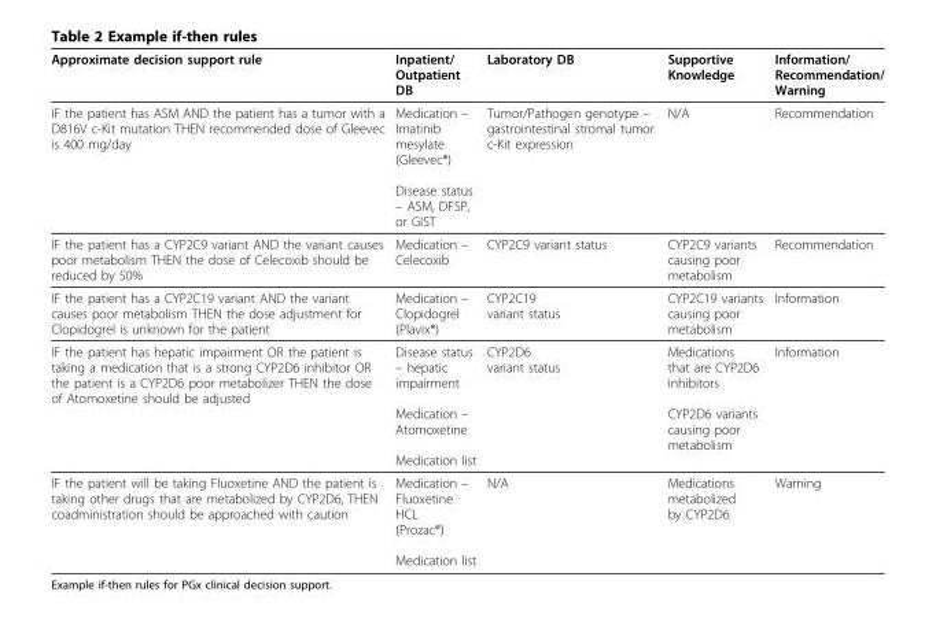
<table><thead><tr><td>Approximate decision support rule</td><td>Inpatient/ Outpatient DB</td><td>Laboratory DB</td><td>Supportive Knowledge</td><td>Information/ Recommendation/ Warning</td></tr></thead><tbody><tr><td>IF the patient has ASM AND the patient has a tumor with a D816V c-Kit mutation THEN recommended dose of Gleevec is 400 mg/day</td><td>Medication – Imatinib mesylate (Gleevec®) Disease status – ASM, DFSP, or GIST</td><td>Tumor/Pathogen genotype – gastrointestinal stromal tumor c-Kit expression</td><td>N/A</td><td>Recommendation</td></tr><tr><td>IF the patient has a CYP2C9 variant AND the variant causes poor metabolism THEN the dose of Celecoxib should be reduced by 50%</td><td>Medication – Celecoxib</td><td>CYP2C9 variant status</td><td>CYP2C9 variants causing poor metabolism</td><td>Recommendation</td></tr><tr><td>IF the patient has a CYP2C19 variant AND the variant causes poor metabolism THEN the dose adjustment for Clopidogrel is unknown for the patient</td><td>Medication – Clopidogrel (Plavix®)</td><td>CYP2C19 variant status</td><td>CYP2C19 variants causing poor metabolism</td><td>Information</td></tr><tr><td>IF the patient has hepatic impairment OR the patient is taking a medication that is a strong CYP2D6 inhibitor OR the patient is a CYP2D6 poor metabolizer THEN the dose of Atomoxetine should be adjusted</td><td>Disease status – hepatic impairment Medication – Atomoxetine Medication list</td><td>CYP2D6 variant status</td><td>Medications that are CYP2D6 inhibitors CYP2D6 variants causing poor metabolism</td><td>Information</td></tr><tr><td>IF the patient will be taking Fluoxetine AND the patient is taking other drugs that are metabolized by CYP2D6, THEN coadministration should be approached with caution</td><td>Medication – Fluoxetine HCL (Prozac®) Medication list</td><td>N/A</td><td>Medications metabolized by CYP2D6</td><td>Warning</td></tr></tbody></table>